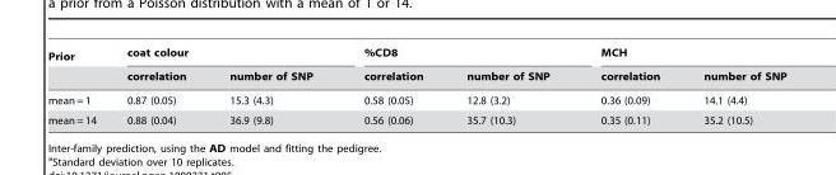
<table><thead><tr><td rowspan="2">Prior</td><td colspan="2">coat colour</td><td colspan="2">%CD8</td><td colspan="2">MCH</td></tr><tr><td>correlation</td><td>number of SNP</td><td>correlation</td><td>number of SNP</td><td>correlation</td><td>number of SNP</td></tr></thead><tbody><tr><td>mean = 1</td><td>0.87 (0.05)</td><td>15.3 (4.3)</td><td>0.58 (0.05)</td><td>12.8 (3.2)</td><td>0.36 (0.09)</td><td>14.1 (4.4)</td></tr><tr><td>mean = 14</td><td>0.88 (0.04)</td><td>36.9 (9.8)</td><td>0.56 (0.06)</td><td>35.7 (10.3)</td><td>0.35 (0.11)</td><td>35.2 (10.5)</td></tr></tbody></table>